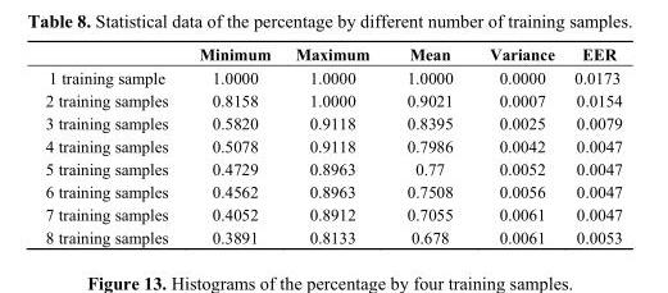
<table><thead><tr><td></td><td>Minimum</td><td>Maximum</td><td>Mean</td><td>Variance</td><td>EER</td></tr></thead><tbody><tr><td>1 training sample</td><td>1.0000</td><td>1.0000</td><td>1.0000</td><td>0.0000</td><td>0.0173</td></tr><tr><td>2 training samples</td><td>0.8158</td><td>1.0000</td><td>0.9021</td><td>0.0007</td><td>0.0154</td></tr><tr><td>3 training samples</td><td>0.5820</td><td>0.9118</td><td>0.8395</td><td>0.0025</td><td>0.0079</td></tr><tr><td>4 training samples</td><td>0.5078</td><td>0.9118</td><td>0.7986</td><td>0.0042</td><td>0.0047</td></tr><tr><td>5 training samples</td><td>0.4729</td><td>0.8963</td><td>0.77</td><td>0.0052</td><td>0.0047</td></tr><tr><td>6 training samples</td><td>0.4562</td><td>0.8963</td><td>0.7508</td><td>0.0056</td><td>0.0047</td></tr><tr><td>7 training samples</td><td>0.4052</td><td>0.8912</td><td>0.7055</td><td>0.0061</td><td>0.0047</td></tr><tr><td>8 training samples</td><td>0.3891</td><td>0.8133</td><td>0.678</td><td>0.0061</td><td>0.0053</td></tr></tbody></table>